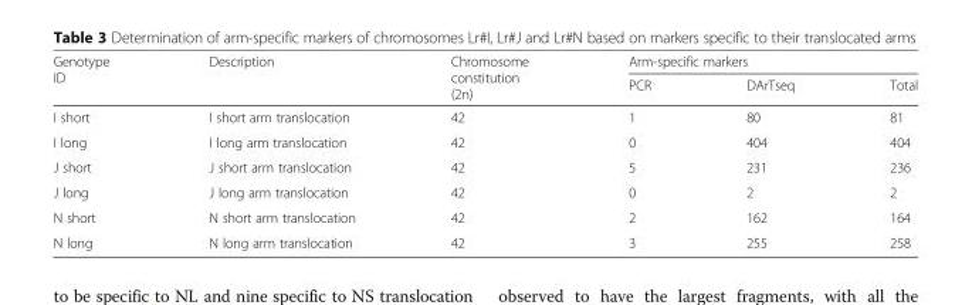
<table><thead><tr><td rowspan="2">Genotype ID</td><td rowspan="2">Description</td><td rowspan="2">Chromosome constitution (2n)</td><td colspan="3">Arm-specific markers</td></tr><tr><td>PCR</td><td>DArTseq</td><td>Total</td></tr></thead><tbody><tr><td>I short</td><td>I short arm translocation</td><td>42</td><td>1</td><td>80</td><td>81</td></tr><tr><td>I long</td><td>I long arm translocation</td><td>42</td><td>0</td><td>404</td><td>404</td></tr><tr><td>J short</td><td>J short arm translocation</td><td>42</td><td>5</td><td>231</td><td>236</td></tr><tr><td>J long</td><td>J long arm translocation</td><td>42</td><td>0</td><td>2</td><td>2</td></tr><tr><td>N short</td><td>N short arm translocation</td><td>42</td><td>2</td><td>162</td><td>164</td></tr><tr><td>N long</td><td>N long arm translocation</td><td>42</td><td>3</td><td>255</td><td>258</td></tr></tbody></table>